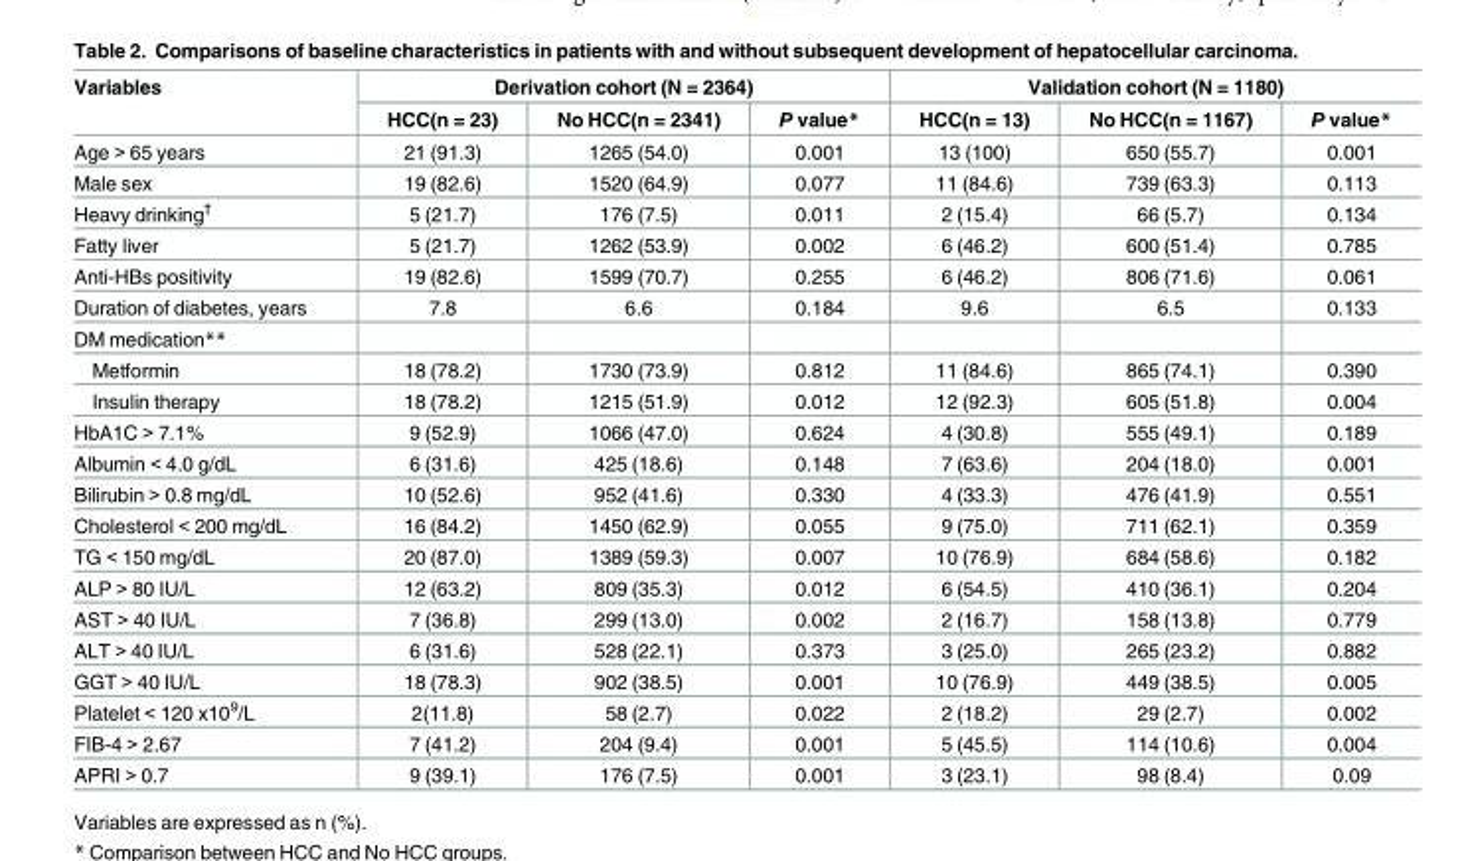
<table><thead><tr><td rowspan="2">Variables</td><td colspan="3">Derivation cohort (N = 2364)</td><td colspan="3">Validation cohort (N = 1180)</td></tr><tr><td>HCC(n = 23)</td><td>No HCC(n = 2341)</td><td>P value*</td><td>HCC(n = 13)</td><td>No HCC(n = 1167)</td><td>P value*</td></tr></thead><tbody><tr><td>Age &gt; 65 years</td><td>21 (91.3)</td><td>1265 (54.0)</td><td>0.001</td><td>13 (100)</td><td>650 (55.7)</td><td>0.001</td></tr><tr><td>Male sex</td><td>19 (82.6)</td><td>1520 (64.9)</td><td>0.077</td><td>11 (84.6)</td><td>739 (63.3)</td><td>0.113</td></tr><tr><td>Heavy drinking<sup>†</sup></td><td>5 (21.7)</td><td>176 (7.5)</td><td>0.011</td><td>2 (15.4)</td><td>66 (5.7)</td><td>0.134</td></tr><tr><td>Fatty liver</td><td>5 (21.7)</td><td>1262 (53.9)</td><td>0.002</td><td>6 (46.2)</td><td>600 (51.4)</td><td>0.785</td></tr><tr><td>Anti-HBs positivity</td><td>19 (82.6)</td><td>1599 (70.7)</td><td>0.255</td><td>6 (46.2)</td><td>806 (71.6)</td><td>0.061</td></tr><tr><td>Duration of diabetes, years</td><td>7.8</td><td>6.6</td><td>0.184</td><td>9.6</td><td>6.5</td><td>0.133</td></tr><tr><td colspan="7">DM medication**</td></tr><tr><td>Metformin</td><td>18 (78.2)</td><td>1730 (73.9)</td><td>0.812</td><td>11 (84.6)</td><td>865 (74.1)</td><td>0.390</td></tr><tr><td>Insulin therapy</td><td>18 (78.2)</td><td>1215 (51.9)</td><td>0.012</td><td>12 (92.3)</td><td>605 (51.8)</td><td>0.004</td></tr><tr><td>HbA1C &gt; 7.1%</td><td>9 (52.9)</td><td>1066 (47.0)</td><td>0.624</td><td>4 (30.8)</td><td>555 (49.1)</td><td>0.189</td></tr><tr><td>Albumin &lt; 4.0 g/dL</td><td>6 (31.6)</td><td>425 (18.6)</td><td>0.148</td><td>7 (63.6)</td><td>204 (18.0)</td><td>0.001</td></tr><tr><td>Bilirubin &gt; 0.8 mg/dL</td><td>10 (52.6)</td><td>952 (41.6)</td><td>0.330</td><td>4 (33.3)</td><td>476 (41.9)</td><td>0.551</td></tr><tr><td>Cholesterol &lt; 200 mg/dL</td><td>16 (84.2)</td><td>1450 (62.9)</td><td>0.055</td><td>9 (75.0)</td><td>711 (62.1)</td><td>0.359</td></tr><tr><td>TG &lt; 150 mg/dL</td><td>20 (87.0)</td><td>1389 (59.3)</td><td>0.007</td><td>10 (76.9)</td><td>684 (58.6)</td><td>0.182</td></tr><tr><td>ALP &gt; 80 IU/L</td><td>12 (63.2)</td><td>809 (35.3)</td><td>0.012</td><td>6 (54.5)</td><td>410 (36.1)</td><td>0.204</td></tr><tr><td>AST &gt; 40 IU/L</td><td>7 (36.8)</td><td>299 (13.0)</td><td>0.002</td><td>2 (16.7)</td><td>158 (13.8)</td><td>0.779</td></tr><tr><td>ALT &gt; 40 IU/L</td><td>6 (31.6)</td><td>528 (22.1)</td><td>0.373</td><td>3 (25.0)</td><td>265 (23.2)</td><td>0.882</td></tr><tr><td>GGT &gt; 40 IU/L</td><td>18 (78.3)</td><td>902 (38.5)</td><td>0.001</td><td>10 (76.9)</td><td>449 (38.5)</td><td>0.005</td></tr><tr><td>Platelet &lt; 120 x10<sup>9</sup>/L</td><td>2(11.8)</td><td>58 (2.7)</td><td>0.022</td><td>2 (18.2)</td><td>29 (2.7)</td><td>0.002</td></tr><tr><td>FIB-4 &gt; 2.67</td><td>7 (41.2)</td><td>204 (9.4)</td><td>0.001</td><td>5 (45.5)</td><td>114 (10.6)</td><td>0.004</td></tr><tr><td>APRI &gt; 0.7</td><td>9 (39.1)</td><td>176 (7.5)</td><td>0.001</td><td>3 (23.1)</td><td>98 (8.4)</td><td>0.09</td></tr></tbody></table>